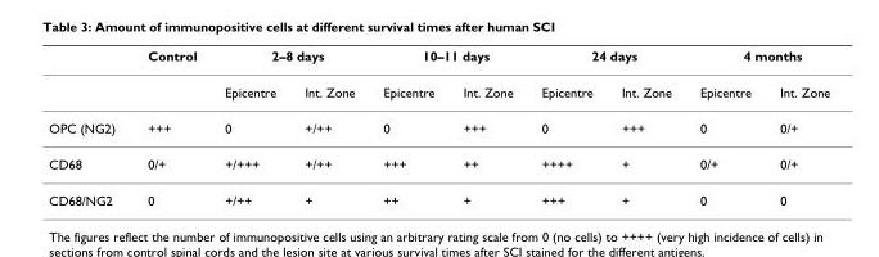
<table><thead><tr><td rowspan="2"></td><td rowspan="2">Control</td><td colspan="2">2–8 days</td><td colspan="2">10–11 days</td><td colspan="2">24 days</td><td colspan="2">4 months</td></tr><tr><td>Epicentre</td><td>Int. Zone</td><td>Epicentre</td><td>Int. Zone</td><td>Epicentre</td><td>Int. Zone</td><td>Epicentre</td><td>Int. Zone</td></tr></thead><tbody><tr><td>OPC (NG2)</td><td>+++</td><td>0</td><td>+/++</td><td>0</td><td>+++</td><td>0</td><td>+++</td><td>0</td><td>0/+</td></tr><tr><td>CD68</td><td>0/+</td><td>+/+++</td><td>+/++</td><td>+++</td><td>++</td><td>++++</td><td>+</td><td>0/+</td><td>0/+</td></tr><tr><td>CD68/NG2</td><td>0</td><td>+/++</td><td>+</td><td>++</td><td>+</td><td>+++</td><td>+</td><td>0</td><td>0</td></tr></tbody></table>